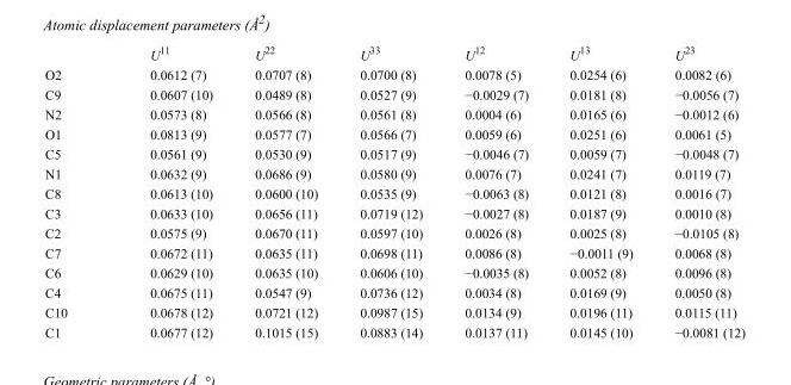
<table><thead><tr><td></td><td>U<sup>11</sup></td><td>U<sup>22</sup></td><td>U<sup>33</sup></td><td>U<sup>12</sup></td><td>U<sup>13</sup></td><td>U<sup>23</sup></td></tr></thead><tbody><tr><td>O2</td><td>0.0612 (7)</td><td>0.0707 (8)</td><td>0.0700 (8)</td><td>0.0078 (5)</td><td>0.0254 (6)</td><td>0.0082 (6)</td></tr><tr><td>C9</td><td>0.0607 (10)</td><td>0.0489 (8)</td><td>0.0527 (9)</td><td>−0.0029 (7)</td><td>0.0181 (8)</td><td>−0.0056 (7)</td></tr><tr><td>N2</td><td>0.0573 (8)</td><td>0.0566 (8)</td><td>0.0561 (8)</td><td>0.0004 (6)</td><td>0.0165 (6)</td><td>−0.0012 (6)</td></tr><tr><td>O1</td><td>0.0813 (9)</td><td>0.0577 (7)</td><td>0.0566 (7)</td><td>0.0059 (6)</td><td>0.0251 (6)</td><td>0.0061 (5)</td></tr><tr><td>C5</td><td>0.0561 (9)</td><td>0.0530 (9)</td><td>0.0517 (9)</td><td>−0.0046 (7)</td><td>0.0059 (7)</td><td>−0.0048 (7)</td></tr><tr><td>N1</td><td>0.0632 (9)</td><td>0.0686 (9)</td><td>0.0580 (9)</td><td>0.0076 (7)</td><td>0.0241 (7)</td><td>0.0119 (7)</td></tr><tr><td>C8</td><td>0.0613 (10)</td><td>0.0600 (10)</td><td>0.0535 (9)</td><td>−0.0063 (8)</td><td>0.0121 (8)</td><td>0.0016 (7)</td></tr><tr><td>C3</td><td>0.0633 (10)</td><td>0.0656 (11)</td><td>0.0719 (12)</td><td>−0.0027 (8)</td><td>0.0187 (9)</td><td>0.0010 (8)</td></tr><tr><td>C2</td><td>0.0575 (9)</td><td>0.0670 (11)</td><td>0.0597 (10)</td><td>0.0026 (8)</td><td>0.0025 (8)</td><td>−0.0105 (8)</td></tr><tr><td>C7</td><td>0.0672 (11)</td><td>0.0635 (11)</td><td>0.0698 (11)</td><td>0.0086 (8)</td><td>−0.0011 (9)</td><td>0.0068 (8)</td></tr><tr><td>C6</td><td>0.0629 (10)</td><td>0.0635 (10)</td><td>0.0606 (10)</td><td>−0.0035 (8)</td><td>0.0052 (8)</td><td>0.0096 (8)</td></tr><tr><td>C4</td><td>0.0675 (11)</td><td>0.0547 (9)</td><td>0.0736 (12)</td><td>0.0034 (8)</td><td>0.0169 (9)</td><td>0.0050 (8)</td></tr><tr><td>C10</td><td>0.0678 (12)</td><td>0.0721 (12)</td><td>0.0987 (15)</td><td>0.0134 (9)</td><td>0.0196 (11)</td><td>0.0115 (11)</td></tr><tr><td>C1</td><td>0.0677 (12)</td><td>0.1015 (15)</td><td>0.0883 (14)</td><td>0.0137 (11)</td><td>0.0145 (10)</td><td>−0.0081 (12)</td></tr></tbody></table>